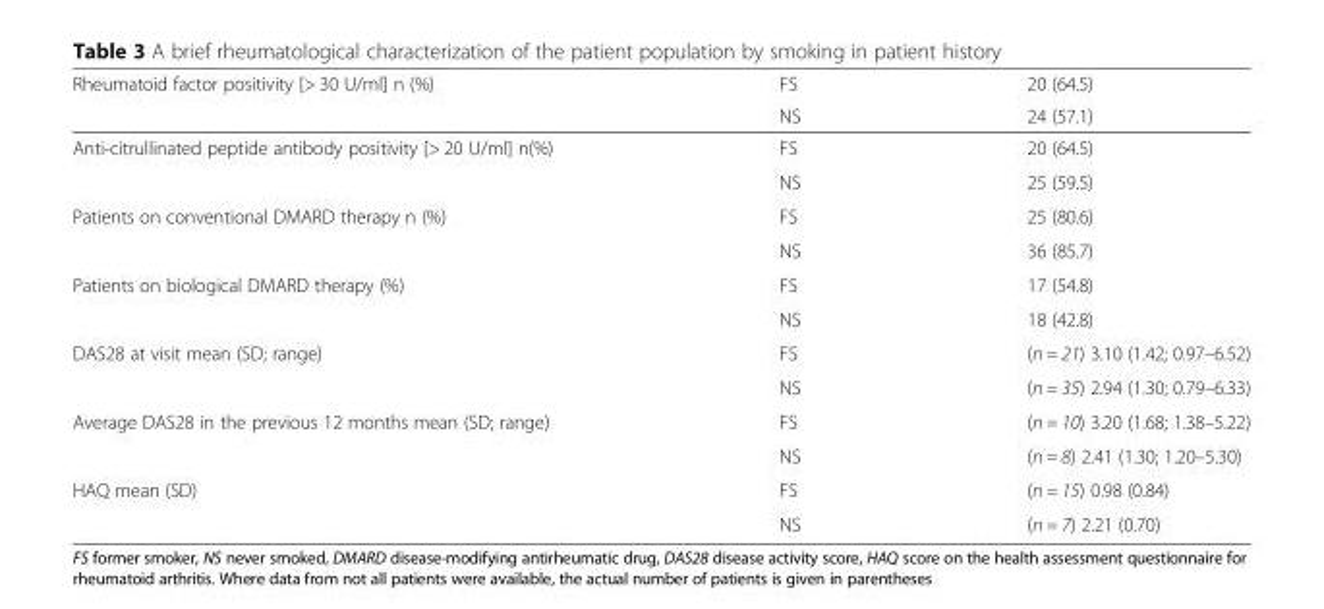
<table><thead><tr><td rowspan="2">Rheumatoid factor positivity [&gt; 30 U/ml] n (%)</td><td rowspan="2">FS NS</td><td rowspan="2">20 (64.5) 24 (57.1)</td></tr><tr></tr></thead><tbody><tr><td rowspan="2">Anti-citrullinated peptide antibody positivity [&gt; 20 U/ml] n(%)</td><td>FS</td><td>20 (64.5)</td></tr><tr><td>NS</td><td>25 (59.5)</td></tr><tr><td rowspan="2">Patients on conventional DMARD therapy n (%)</td><td>FS</td><td>25 (80.6)</td></tr><tr><td>NS</td><td>36 (85.7)</td></tr><tr><td rowspan="2">Patients on biological DMARD therapy (%)</td><td>FS</td><td>17 (54.8)</td></tr><tr><td>NS</td><td>18 (42.8)</td></tr><tr><td rowspan="2">DAS28 at visit mean (SD; range)</td><td>FS</td><td>(n = 21) 3.10 (1.42; 0.97–6.52)</td></tr><tr><td>NS</td><td>(n = 35) 2.94 (1.30; 0.79–6.33)</td></tr><tr><td rowspan="2">Average DAS28 in the previous 12 months mean (SD; range)</td><td>FS</td><td>(n = 10) 3.20 (1.68; 1.38–5.22)</td></tr><tr><td>NS</td><td>(n = 8) 2.41 (1.30; 1.20–5.30)</td></tr><tr><td rowspan="2">HAQ mean (SD)</td><td>FS</td><td>(n = 15) 0.98 (0.84)</td></tr><tr><td>NS</td><td>(n = 7) 2.21 (0.70)</td></tr></tbody></table>